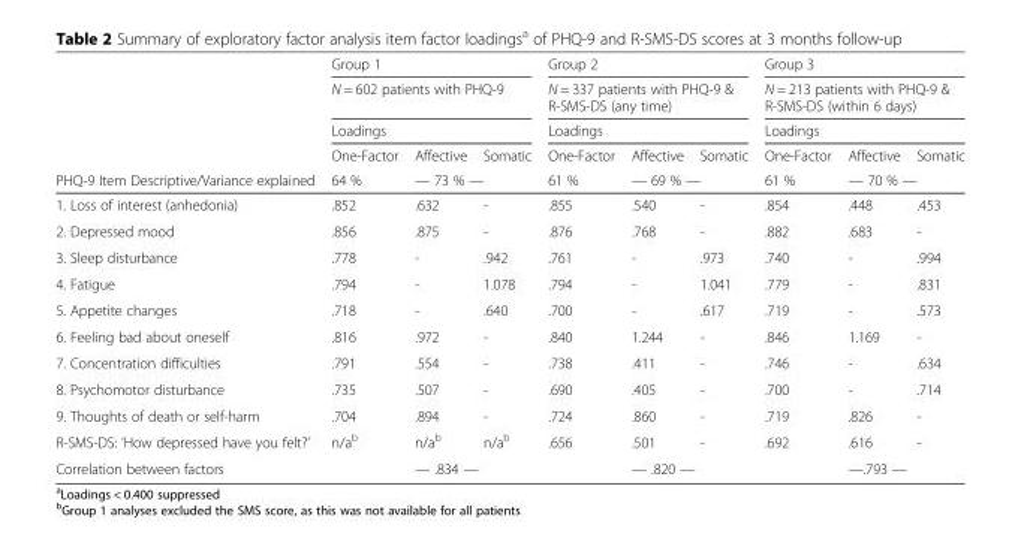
<table><thead><tr><td rowspan="5">PHQ-9 Item Descriptive/Variance explained</td><td rowspan="3" colspan="3">Group 1 N = 602 patients with PHQ-9 Loadings</td><td rowspan="3" colspan="3">Group 2 N = 337 patients with PHQ-9 &amp; R-SMS-DS (any time) Loadings</td><td rowspan="3" colspan="3">Group 3 N = 213 patients with PHQ-9 &amp; R-SMS-DS (within 6 days) Loadings</td></tr><tr></tr><tr></tr><tr><td rowspan="2">One-Factor 64 %</td><td>Affective</td><td>Somatic</td><td rowspan="2">One-Factor 61 %</td><td>Affective</td><td>Somatic</td><td rowspan="2">One-Factor 61 %</td><td>Affective</td><td>Somatic</td></tr><tr><td colspan="2">— 73 % —</td><td colspan="2">— 69 % —</td><td colspan="2">— 70 % —</td></tr></thead><tbody><tr><td>1. Loss of interest (anhedonia)</td><td>.852</td><td>.632</td><td>-</td><td>.855</td><td>.540</td><td>-</td><td>.854</td><td>.448</td><td>.453</td></tr><tr><td>2. Depressed mood</td><td>.856</td><td>.875</td><td>-</td><td>.876</td><td>.768</td><td>-</td><td>.882</td><td>.683</td><td>-</td></tr><tr><td>3. Sleep disturbance</td><td>.778</td><td>-</td><td>.942</td><td>.761</td><td>-</td><td>.973</td><td>.740</td><td>-</td><td>.994</td></tr><tr><td>4. Fatigue</td><td>.794</td><td>-</td><td>1.078</td><td>.794</td><td>-</td><td>1.041</td><td>.779</td><td>-</td><td>.831</td></tr><tr><td>5. Appetite changes</td><td>.718</td><td>-</td><td>.640</td><td>.700</td><td>-</td><td>.617</td><td>.719</td><td>-</td><td>.573</td></tr><tr><td>6. Feeling bad about oneself</td><td>.816</td><td>.972</td><td>-</td><td>.840</td><td>1.244</td><td>-</td><td>.846</td><td>1.169</td><td>-</td></tr><tr><td>7. Concentration difficulties</td><td>.791</td><td>.554</td><td>-</td><td>.738</td><td>.411</td><td>-</td><td>.746</td><td>-</td><td>.634</td></tr><tr><td>8. Psychomotor disturbance</td><td>.735</td><td>.507</td><td>-</td><td>.690</td><td>.405</td><td>-</td><td>.700</td><td>-</td><td>.714</td></tr><tr><td>9. Thoughts of death or self-harm</td><td>.704</td><td>.894</td><td>-</td><td>.724</td><td>.860</td><td>-</td><td>.719</td><td>.826</td><td>-</td></tr><tr><td>R-SMS-DS: ‘How depressed have you felt?’</td><td>n/a<sup>b</sup></td><td>n/a<sup>b</sup></td><td>n/a<sup>b</sup></td><td>.656</td><td>.501</td><td>-</td><td>.692</td><td>.616</td><td>-</td></tr><tr><td>Correlation between factors</td><td></td><td colspan="2">— .834 —</td><td></td><td colspan="2">— .820 —</td><td></td><td colspan="2">—.793 —</td></tr></tbody></table>